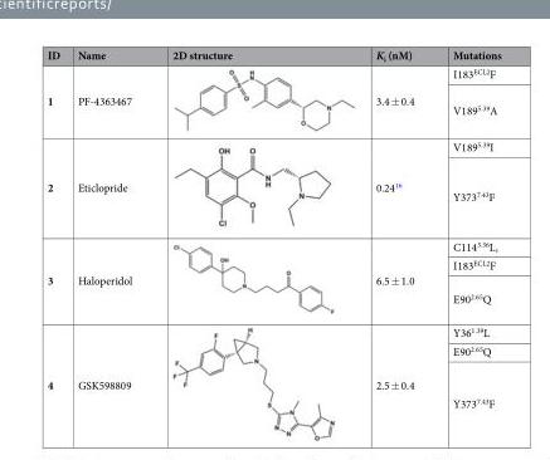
<table><thead><tr><td>ID</td><td>Name</td><td>2D structure</td><td>K<sub>i</sub> (nM)</td><td>Mutations</td></tr></thead><tbody><tr><td rowspan="2">1</td><td rowspan="2">PF-4363467</td><td rowspan="2"></td><td rowspan="2">3.4 ± 0.4</td><td>I183<sup>ECL2</sup>F</td></tr><tr><td>V189<sup>5.39</sup>A</td></tr><tr><td rowspan="2">2</td><td rowspan="2">Eticlopride</td><td rowspan="2"></td><td rowspan="2">0.24<sup>16</sup></td><td>V189<sup>5.39</sup>I</td></tr><tr><td>Y373<sup>7.43</sup>F</td></tr><tr><td rowspan="3">3</td><td rowspan="3">Haloperidol</td><td rowspan="3"></td><td rowspan="3">6.5 ± 1.0</td><td>C114<sup>3.36</sup>L,</td></tr><tr><td>I183<sup>ECL2</sup>F</td></tr><tr><td>E90<sup>2.65</sup>Q</td></tr><tr><td rowspan="3">4</td><td rowspan="3">GSK598809</td><td rowspan="3"></td><td rowspan="3">2.5 ± 0.4</td><td>Y36<sup>1.39</sup>L</td></tr><tr><td>E90<sup>2.65</sup>Q</td></tr><tr><td>Y373<sup>7.43</sup>F</td></tr></tbody></table>